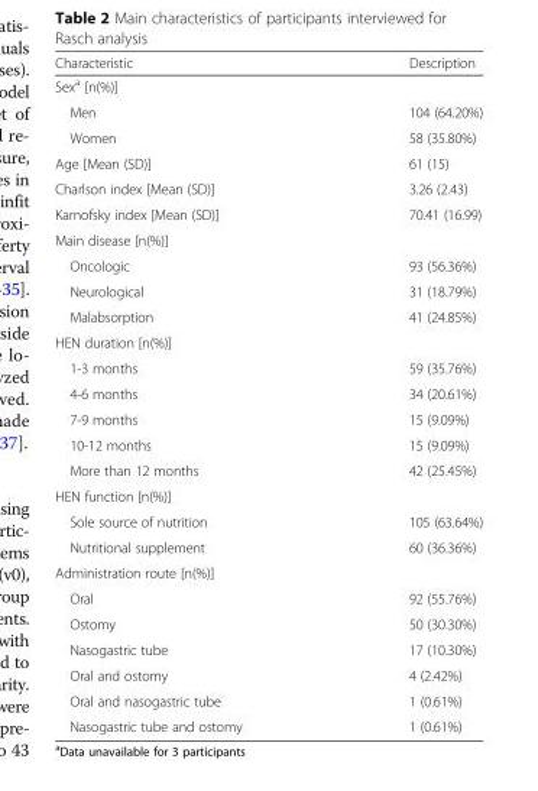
<table><thead><tr><td>Characteristic</td><td>Description</td></tr></thead><tbody><tr><td colspan="2">Sex<sup>a</sup> [n(%)]</td></tr><tr><td>Men</td><td>104 (64.20%)</td></tr><tr><td>Women</td><td>58 (35.80%)</td></tr><tr><td>Age [Mean (SD)]</td><td>61 (15)</td></tr><tr><td>Charlson index [Mean (SD)]</td><td>3.26 (2.43)</td></tr><tr><td>Karnofsky index [Mean (SD)]</td><td>70.41 (16.99)</td></tr><tr><td colspan="2">Main disease [n(%)]</td></tr><tr><td>Oncologic</td><td>93 (56.36%)</td></tr><tr><td>Neurological</td><td>31 (18.79%)</td></tr><tr><td>Malabsorption</td><td>41 (24.85%)</td></tr><tr><td colspan="2">HEN duration [n(%)]</td></tr><tr><td>1-3 months</td><td>59 (35.76%)</td></tr><tr><td>4-6 months</td><td>34 (20.61%)</td></tr><tr><td>7-9 months</td><td>15 (9.09%)</td></tr><tr><td>10-12 months</td><td>15 (9.09%)</td></tr><tr><td>More than 12 months</td><td>42 (25.45%)</td></tr><tr><td colspan="2">HEN function [n(%)]</td></tr><tr><td>Sole source of nutrition</td><td>105 (63.64%)</td></tr><tr><td>Nutritional supplement</td><td>60 (36.36%)</td></tr><tr><td colspan="2">Administration route [n(%)]</td></tr><tr><td>Oral</td><td>92 (55.76%)</td></tr><tr><td>Ostomy</td><td>50 (30.30%)</td></tr><tr><td>Nasogastric tube</td><td>17 (10.30%)</td></tr><tr><td>Oral and ostomy</td><td>4 (2.42%)</td></tr><tr><td>Oral and nasogastric tube</td><td>1 (0.61%)</td></tr><tr><td>Nasogastric tube and ostomy</td><td>1 (0.61%)</td></tr></tbody></table>